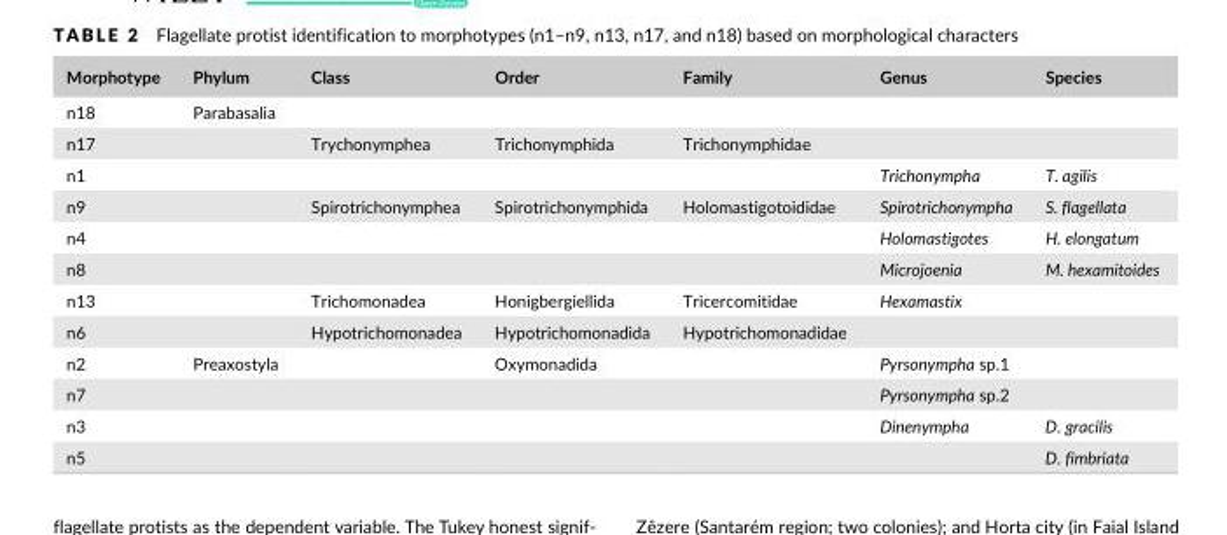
<table><thead><tr><td>Morphotype</td><td>Phylum</td><td>Class</td><td>Order</td><td>Family</td><td>Genus</td><td>Species</td></tr></thead><tbody><tr><td>n18</td><td>Parabasalia</td><td></td><td></td><td></td><td></td><td></td></tr><tr><td>n17</td><td></td><td>Trychonymphea</td><td>Trichonymphida</td><td>Trichonymphidae</td><td></td><td></td></tr><tr><td>n1</td><td></td><td></td><td></td><td></td><td>Trichonympha</td><td>T. agilis</td></tr><tr><td>n9</td><td></td><td>Spirotrichonymphea</td><td>Spirotrichonymphida</td><td>Holomastigotoididae</td><td>Spirotrichonympha</td><td>S. flagellata</td></tr><tr><td>n4</td><td></td><td></td><td></td><td></td><td>Holomastigotes</td><td>H. elongatum</td></tr><tr><td>n8</td><td></td><td></td><td></td><td></td><td>Microjoenia</td><td>M. hexamitoides</td></tr><tr><td>n13</td><td></td><td>Trichomonadea</td><td>Honigbergiellida</td><td>Tricercomitidae</td><td>Hexamastix</td><td></td></tr><tr><td>n6</td><td></td><td>Hypotrichomonadea</td><td>Hypotrichomonadida</td><td>Hypotrichomonadidae</td><td></td><td></td></tr><tr><td>n2</td><td>Preaxostyla</td><td></td><td>Oxymonadida</td><td></td><td>Pyrsonympha sp.1</td><td></td></tr><tr><td>n7</td><td></td><td></td><td></td><td></td><td>Pyrsonympha sp.2</td><td></td></tr><tr><td>n3</td><td></td><td></td><td></td><td></td><td>Dinenympha</td><td>D. gracilis</td></tr><tr><td>n5</td><td></td><td></td><td></td><td></td><td></td><td>D. fimbriata</td></tr></tbody></table>